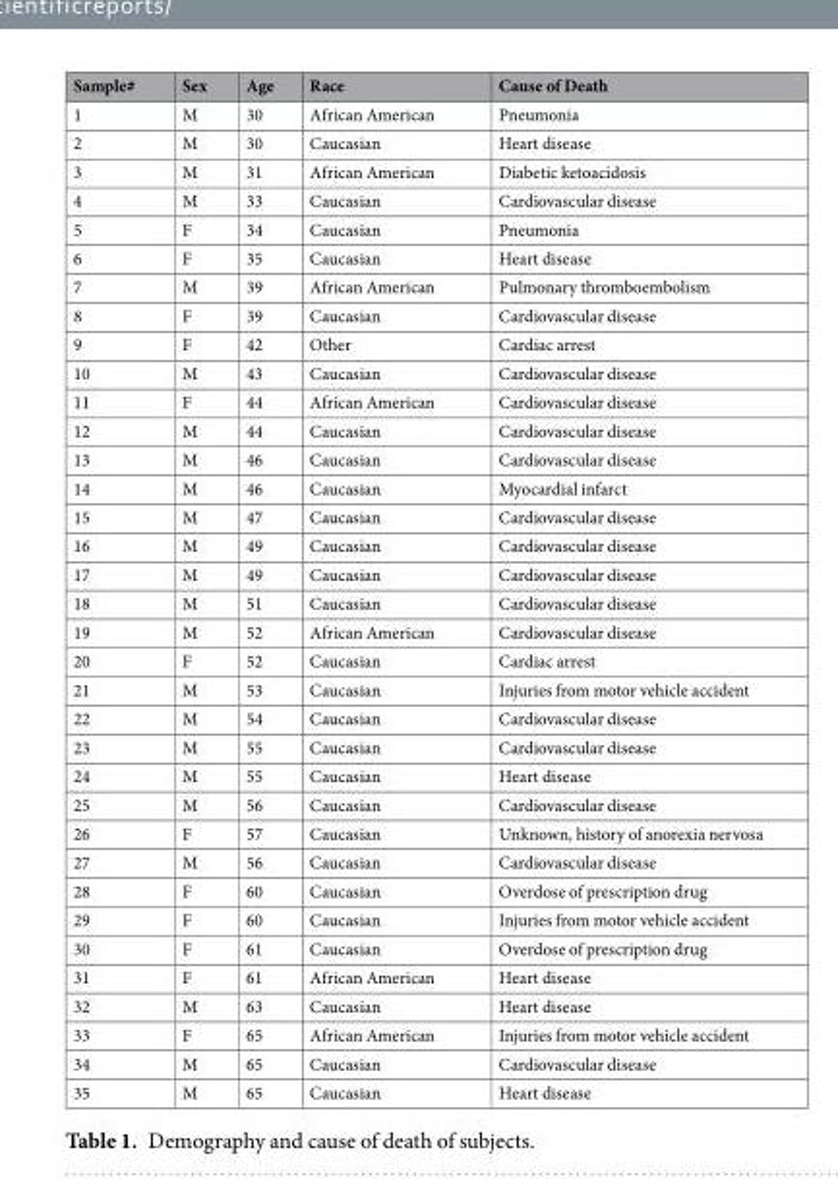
<table><thead><tr><td>Sample#</td><td>Sex</td><td>Age</td><td>Race</td><td>Cause of Death</td></tr></thead><tbody><tr><td>1</td><td>M</td><td>30</td><td>African American</td><td>Pneumonia</td></tr><tr><td>2</td><td>M</td><td>30</td><td>Caucasian</td><td>Heart disease</td></tr><tr><td>3</td><td>M</td><td>31</td><td>African American</td><td>Diabetic ketoacidosis</td></tr><tr><td>4</td><td>M</td><td>33</td><td>Caucasian</td><td>Cardiovascular disease</td></tr><tr><td>5</td><td>F</td><td>34</td><td>Caucasian</td><td>Pneumonia</td></tr><tr><td>6</td><td>F</td><td>35</td><td>Caucasian</td><td>Heart disease</td></tr><tr><td>7</td><td>M</td><td>39</td><td>African American</td><td>Pulmonary thromboembolism</td></tr><tr><td>8</td><td>F</td><td>39</td><td>Caucasian</td><td>Cardiovascular disease</td></tr><tr><td>9</td><td>F</td><td>42</td><td>Other</td><td>Cardiac arrest</td></tr><tr><td>10</td><td>M</td><td>43</td><td>Caucasian</td><td>Cardiovascular disease</td></tr><tr><td>11</td><td>F</td><td>44</td><td>African American</td><td>Cardiovascular disease</td></tr><tr><td>12</td><td>M</td><td>44</td><td>Caucasian</td><td>Cardiovascular disease</td></tr><tr><td>13</td><td>M</td><td>46</td><td>Caucasian</td><td>Cardiovascular disease</td></tr><tr><td>14</td><td>M</td><td>46</td><td>Caucasian</td><td>Myocardial infarct</td></tr><tr><td>15</td><td>M</td><td>47</td><td>Caucasian</td><td>Cardiovascular disease</td></tr><tr><td>16</td><td>M</td><td>49</td><td>Caucasian</td><td>Cardiovascular disease</td></tr><tr><td>17</td><td>M</td><td>49</td><td>Caucasian</td><td>Cardiovascular disease</td></tr><tr><td>18</td><td>M</td><td>51</td><td>Caucasian</td><td>Cardiovascular disease</td></tr><tr><td>19</td><td>M</td><td>52</td><td>African American</td><td>Cardiovascular disease</td></tr><tr><td>20</td><td>F</td><td>52</td><td>Caucasian</td><td>Cardiac arrest</td></tr><tr><td>21</td><td>M</td><td>53</td><td>Caucasian</td><td>Injuries from motor vehicle accident</td></tr><tr><td>22</td><td>M</td><td>54</td><td>Caucasian</td><td>Cardiovascular disease</td></tr><tr><td>23</td><td>M</td><td>55</td><td>Caucasian</td><td>Cardiovascular disease</td></tr><tr><td>24</td><td>M</td><td>55</td><td>Caucasian</td><td>Heart disease</td></tr><tr><td>25</td><td>M</td><td>56</td><td>Caucasian</td><td>Cardiovascular disease</td></tr><tr><td>26</td><td>F</td><td>57</td><td>Caucasian</td><td>Unknown, history of anorexia nervosa</td></tr><tr><td>27</td><td>M</td><td>56</td><td>Caucasian</td><td>Cardiovascular disease</td></tr><tr><td>28</td><td>F</td><td>60</td><td>Caucasian</td><td>Overdose of prescription drug</td></tr><tr><td>29</td><td>F</td><td>60</td><td>Caucasian</td><td>Injuries from motor vehicle accident</td></tr><tr><td>30</td><td>F</td><td>61</td><td>Caucasian</td><td>Overdose of prescription drug</td></tr><tr><td>31</td><td>F</td><td>61</td><td>African American</td><td>Heart disease</td></tr><tr><td>32</td><td>M</td><td>63</td><td>Caucasian</td><td>Heart disease</td></tr><tr><td>33</td><td>F</td><td>65</td><td>African American</td><td>Injuries from motor vehicle accident</td></tr><tr><td>34</td><td>M</td><td>65</td><td>Caucasian</td><td>Cardiovascular disease</td></tr><tr><td>35</td><td>M</td><td>65</td><td>Caucasian</td><td>Heart disease</td></tr></tbody></table>